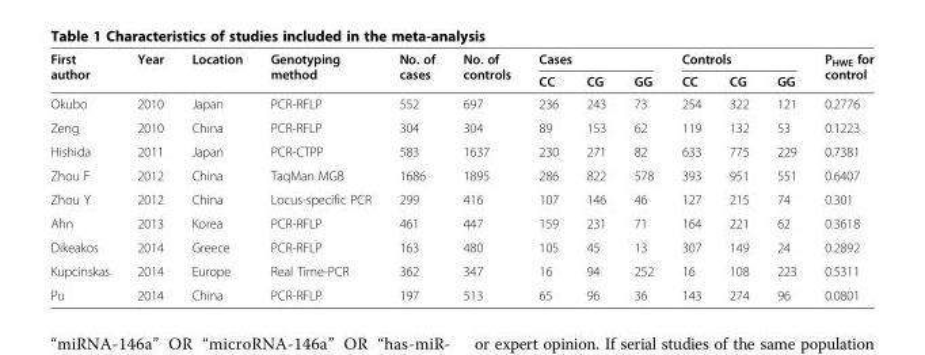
<table><thead><tr><td rowspan="2">First author</td><td rowspan="2">Year</td><td rowspan="2">Location</td><td rowspan="2">Genotyping method</td><td rowspan="2">No. of cases</td><td rowspan="2">No. of controls</td><td colspan="3">Cases</td><td colspan="3">Controls</td><td rowspan="2">P<sub>HWE</sub> for control</td></tr><tr><td>CC</td><td>CG</td><td>GG</td><td>CC</td><td>CG</td><td>GG</td></tr></thead><tbody><tr><td>Okubo</td><td>2010</td><td>Japan</td><td>PCR-RFLP</td><td>552</td><td>697</td><td>236</td><td>243</td><td>73</td><td>254</td><td>322</td><td>121</td><td>0.2776</td></tr><tr><td>Zeng</td><td>2010</td><td>China</td><td>PCR-RFLP</td><td>304</td><td>304</td><td>89</td><td>153</td><td>62</td><td>119</td><td>132</td><td>53</td><td>0.1223</td></tr><tr><td>Hishida</td><td>2011</td><td>Japan</td><td>PCR-CTPP</td><td>583</td><td>1637</td><td>230</td><td>271</td><td>82</td><td>633</td><td>775</td><td>229</td><td>0.7381</td></tr><tr><td>Zhou F</td><td>2012</td><td>China</td><td>TaqMan MGB</td><td>1686</td><td>1895</td><td>286</td><td>822</td><td>578</td><td>393</td><td>951</td><td>551</td><td>0.6407</td></tr><tr><td>Zhou Y</td><td>2012</td><td>China</td><td>Locus-specific PCR</td><td>299</td><td>416</td><td>107</td><td>146</td><td>46</td><td>127</td><td>215</td><td>74</td><td>0.301</td></tr><tr><td>Ahn</td><td>2013</td><td>Korea</td><td>PCR-RFLP</td><td>461</td><td>447</td><td>159</td><td>231</td><td>71</td><td>164</td><td>221</td><td>62</td><td>0.3618</td></tr><tr><td>Dikeakos</td><td>2014</td><td>Greece</td><td>PCR-RFLP</td><td>163</td><td>480</td><td>105</td><td>45</td><td>13</td><td>307</td><td>149</td><td>24</td><td>0.2892</td></tr><tr><td>Kupcinskas</td><td>2014</td><td>Europe</td><td>Real Time-PCR</td><td>362</td><td>347</td><td>16</td><td>94</td><td>252</td><td>16</td><td>108</td><td>223</td><td>0.5311</td></tr><tr><td>Pu</td><td>2014</td><td>China</td><td>PCR-RFLP</td><td>197</td><td>513</td><td>65</td><td>96</td><td>36</td><td>143</td><td>274</td><td>96</td><td>0.0801</td></tr></tbody></table>